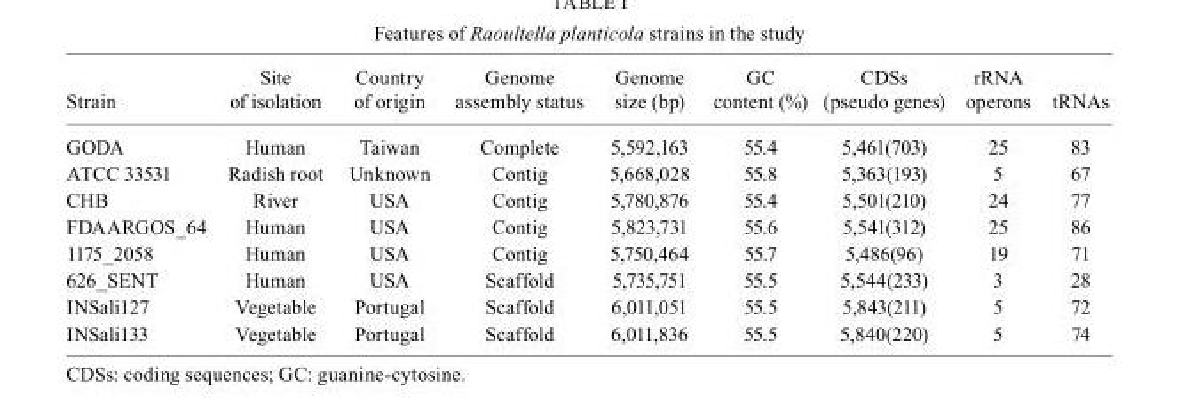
<table><tbody><tr><td>Strain</td><td>Site of isolation</td><td>Country of origin</td><td>Genome assembly status</td><td>Genome size (bp)</td><td>GC content (%)</td><td>CDSs (pseudo genes)</td><td>rRNA operons</td><td>tRNAs</td></tr><tr><td>GODA</td><td>Human</td><td>Taiwan</td><td>Complete</td><td>5,592,163</td><td>55.4</td><td>5,461(703)</td><td>25</td><td>83</td></tr><tr><td>ATCC 33531</td><td>Radish root</td><td>Unknown</td><td>Contig</td><td>5,668,028</td><td>55.8</td><td>5,363(193)</td><td>5</td><td>67</td></tr><tr><td>CHB</td><td>River</td><td>USA</td><td>Contig</td><td>5,780,876</td><td>55.4</td><td>5,501(210)</td><td>24</td><td>77</td></tr><tr><td>FDAARGOS_64</td><td>Human</td><td>USA</td><td>Contig</td><td>5,823,731</td><td>55.6</td><td>5,541(312)</td><td>25</td><td>86</td></tr><tr><td>1175_2058</td><td>Human</td><td>USA</td><td>Contig</td><td>5,750,464</td><td>55.7</td><td>5,486(96)</td><td>19</td><td>71</td></tr><tr><td>626_SENT</td><td>Human</td><td>USA</td><td>Scaffold</td><td>5,735,751</td><td>55.5</td><td>5,544(233)</td><td>3</td><td>28</td></tr><tr><td>INSali127</td><td>Vegetable</td><td>Portugal</td><td>Scaffold</td><td>6,011,051</td><td>55.5</td><td>5,843(211)</td><td>5</td><td>72</td></tr><tr><td>INSali133</td><td>Vegetable</td><td>Portugal</td><td>Scaffold</td><td>6,011,836</td><td>55.5</td><td>5,840(220)</td><td>5</td><td>74</td></tr></tbody></table>